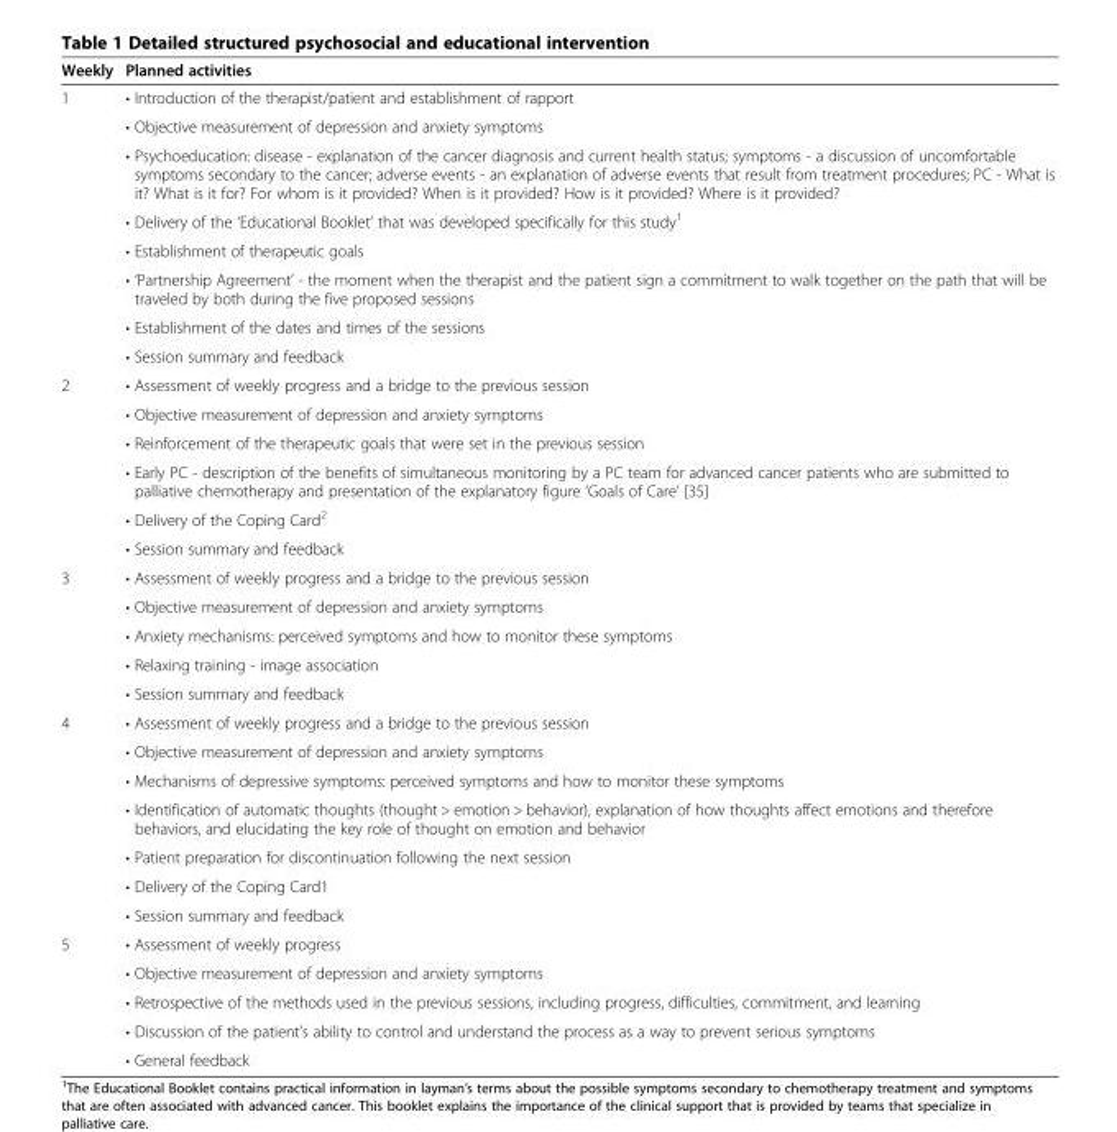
<table><thead><tr><td>Weekly</td><td>Planned activities</td></tr></thead><tbody><tr><td rowspan="8">1</td><td>• Introduction of the therapist/patient and establishment of rapport</td></tr><tr><td>• Objective measurement of depression and anxiety symptoms</td></tr><tr><td>• Psychoeducation: disease - explanation of the cancer diagnosis and current health status; symptoms - a discussion of uncomfortable symptoms secondary to the cancer; adverse events - an explanation of adverse events that result from treatment procedures; PC - What is it? What is it for? For whom is it provided? When is it provided? How is it provided? Where is it provided?</td></tr><tr><td>• Delivery of the ‘Educational Booklet’ that was developed specifically for this study<sup>1</sup></td></tr><tr><td>• Establishment of therapeutic goals</td></tr><tr><td>• ‘Partnership Agreement’ - the moment when the therapist and the patient sign a commitment to walk together on the path that will be traveled by both during the five proposed sessions</td></tr><tr><td>• Establishment of the dates and times of the sessions</td></tr><tr><td>• Session summary and feedback</td></tr><tr><td rowspan="6">2</td><td>• Assessment of weekly progress and a bridge to the previous session</td></tr><tr><td>• Objective measurement of depression and anxiety symptoms</td></tr><tr><td>• Reinforcement of the therapeutic goals that were set in the previous session</td></tr><tr><td>• Early PC - description of the benefits of simultaneous monitoring by a PC team for advanced cancer patients who are submitted to palliative chemotherapy and presentation of the explanatory figure ‘Goals of Care’ [35]</td></tr><tr><td>• Delivery of the Coping Card<sup>2</sup></td></tr><tr><td>• Session summary and feedback</td></tr><tr><td rowspan="5">3</td><td>• Assessment of weekly progress and a bridge to the previous session</td></tr><tr><td>• Objective measurement of depression and anxiety symptoms</td></tr><tr><td>• Anxiety mechanisms: perceived symptoms and how to monitor these symptoms</td></tr><tr><td>• Relaxing training - image association</td></tr><tr><td>• Session summary and feedback</td></tr><tr><td rowspan="7">4</td><td>• Assessment of weekly progress and a bridge to the previous session</td></tr><tr><td>• Objective measurement of depression and anxiety symptoms</td></tr><tr><td>• Mechanisms of depressive symptoms: perceived symptoms and how to monitor these symptoms</td></tr><tr><td>• Identification of automatic thoughts (thought &gt; emotion &gt; behavior), explanation of how thoughts affect emotions and therefore behaviors, and elucidating the key role of thought on emotion and behavior</td></tr><tr><td>• Patient preparation for discontinuation following the next session</td></tr><tr><td>• Delivery of the Coping Card1</td></tr><tr><td>• Session summary and feedback</td></tr><tr><td rowspan="5">5</td><td>• Assessment of weekly progress</td></tr><tr><td>• Objective measurement of depression and anxiety symptoms</td></tr><tr><td>• Retrospective of the methods used in the previous sessions, including progress, difficulties, commitment, and learning</td></tr><tr><td>• Discussion of the patient’s ability to control and understand the process as a way to prevent serious symptoms</td></tr><tr><td>• General feedback</td></tr></tbody></table>